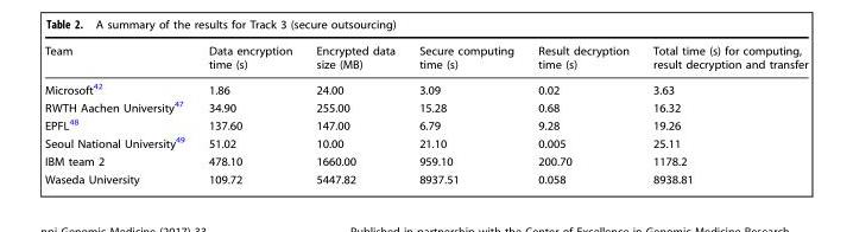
<table><thead><tr><td>Team</td><td>Data encryption time (s)</td><td>Encrypted data size (MB)</td><td>Secure computing time (s)</td><td>Result decryption time (s)</td><td>Total time (s) for computing, result decryption and transfer</td></tr></thead><tbody><tr><td>Microsoft<sup>42</sup></td><td>1.86</td><td>24.00</td><td>3.09</td><td>0.02</td><td>3.63</td></tr><tr><td>RWTH Aachen University<sup>47</sup></td><td>34.90</td><td>255.00</td><td>15.28</td><td>0.68</td><td>16.32</td></tr><tr><td>EPFL<sup>48</sup></td><td>137.60</td><td>147.00</td><td>6.79</td><td>9.28</td><td>19.26</td></tr><tr><td>Seoul National University<sup>49</sup></td><td>51.02</td><td>10.00</td><td>21.10</td><td>0.005</td><td>25.11</td></tr><tr><td>IBM team 2</td><td>478.10</td><td>1660.00</td><td>959.10</td><td>200.70</td><td>1178.2</td></tr><tr><td>Waseda University</td><td>109.72</td><td>5447.82</td><td>8937.51</td><td>0.058</td><td>8938.81</td></tr></tbody></table>